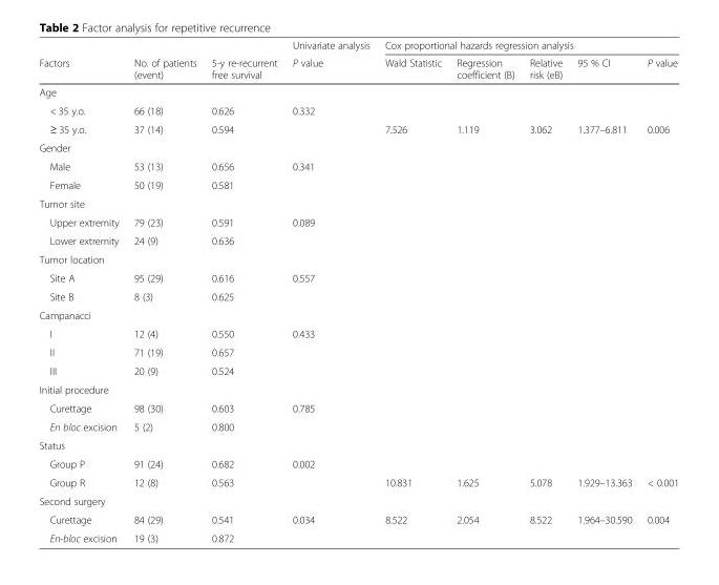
<table><thead><tr><td rowspan="2">Factors</td><td rowspan="2">No. of patients (event)</td><td rowspan="2">5-y re-recurrent free survival</td><td rowspan="2">Univariate analysis P value</td><td colspan="5">Cox proportional hazards regression analysis</td></tr><tr><td>Wald Statistic</td><td>Regression coefficient (B)</td><td>Relative risk (eB)</td><td>95 % CI</td><td>P value</td></tr></thead><tbody><tr><td colspan="9">Age</td></tr><tr><td>&lt; 35 y.o.</td><td>66 (18)</td><td>0.626</td><td>0.332</td><td></td><td></td><td></td><td></td><td></td></tr><tr><td>≥ 35 y.o.</td><td>37 (14)</td><td>0.594</td><td></td><td>7.526</td><td>1.119</td><td>3.062</td><td>1.377–6.811</td><td>0.006</td></tr><tr><td colspan="9">Gender</td></tr><tr><td>Male</td><td>53 (13)</td><td>0.656</td><td>0.341</td><td></td><td></td><td></td><td></td><td></td></tr><tr><td>Female</td><td>50 (19)</td><td>0.581</td><td></td><td></td><td></td><td></td><td></td><td></td></tr><tr><td colspan="9">Tumor site</td></tr><tr><td>Upper extremity</td><td>79 (23)</td><td>0.591</td><td>0.089</td><td></td><td></td><td></td><td></td><td></td></tr><tr><td>Lower extremity</td><td>24 (9)</td><td>0.636</td><td></td><td></td><td></td><td></td><td></td><td></td></tr><tr><td colspan="9">Tumor location</td></tr><tr><td>Site A</td><td>95 (29)</td><td>0.616</td><td>0.557</td><td></td><td></td><td></td><td></td><td></td></tr><tr><td>Site B</td><td>8 (3)</td><td>0.625</td><td></td><td></td><td></td><td></td><td></td><td></td></tr><tr><td colspan="9">Campanacci</td></tr><tr><td>I</td><td>12 (4)</td><td>0.550</td><td>0.433</td><td></td><td></td><td></td><td></td><td></td></tr><tr><td>II</td><td>71 (19)</td><td>0.657</td><td></td><td></td><td></td><td></td><td></td><td></td></tr><tr><td>III</td><td>20 (9)</td><td>0.524</td><td></td><td></td><td></td><td></td><td></td><td></td></tr><tr><td colspan="9">Initial procedure</td></tr><tr><td>Curettage</td><td>98 (30)</td><td>0.603</td><td>0.785</td><td></td><td></td><td></td><td></td><td></td></tr><tr><td>En bloc excision</td><td>5 (2)</td><td>0.800</td><td></td><td></td><td></td><td></td><td></td><td></td></tr><tr><td colspan="9">Status</td></tr><tr><td>Group P</td><td>91 (24)</td><td>0.682</td><td>0.002</td><td></td><td></td><td></td><td></td><td></td></tr><tr><td>Group R</td><td>12 (8)</td><td>0.563</td><td></td><td>10.831</td><td>1.625</td><td>5.078</td><td>1.929–13.363</td><td>&lt; 0.001</td></tr><tr><td colspan="9">Second surgery</td></tr><tr><td>Curettage</td><td>84 (29)</td><td>0.541</td><td>0.034</td><td>8.522</td><td>2.054</td><td>8.522</td><td>1.964–30.590</td><td>0.004</td></tr><tr><td>En-bloc excision</td><td>19 (3)</td><td>0.872</td><td></td><td></td><td></td><td></td><td></td><td></td></tr></tbody></table>